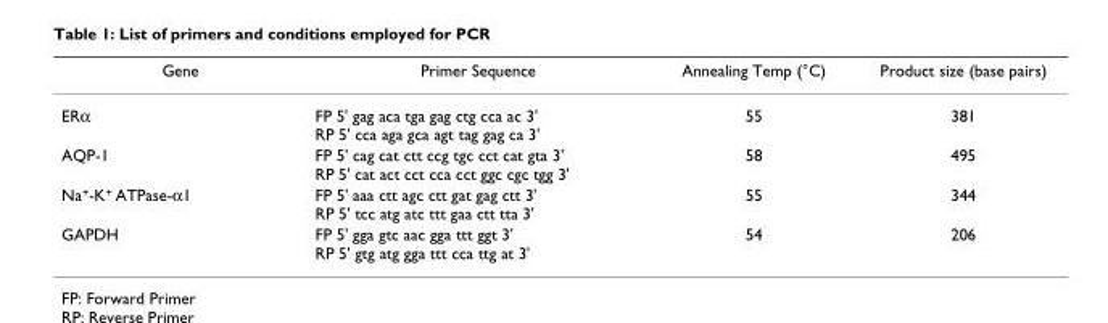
<table><thead><tr><td>Gene</td><td>Primer Sequence</td><td>Annealing Temp (°C)</td><td>Product size (base pairs)</td></tr></thead><tbody><tr><td>ERα</td><td>FP 5&#x27; gag aca tga gag ctg cca ac 3&#x27; RP 5&#x27; cca aga gca agt tag gag ca 3&#x27;</td><td>55</td><td>381</td></tr><tr><td>AQP-1</td><td>FP 5&#x27; cag cat ctt ccg tgc cct cat gta 3&#x27; RP 5&#x27; cat act cct cca cct ggc cgc tgg 3&#x27;</td><td>58</td><td>495</td></tr><tr><td>Na<sup>+</sup>-K<sup>+</sup> ATPase-α1</td><td>FP 5&#x27; aaa ctt agc ctt gat gag ctt 3&#x27; RP 5&#x27; tcc atg atc ttt gaa ctt tta 3&#x27;</td><td>55</td><td>344</td></tr><tr><td>GAPDH</td><td>FP 5&#x27; gga gtc aac gga ttt ggt 3&#x27; RP 5&#x27; gtg atg gga ttt cca ttg at 3&#x27;</td><td>54</td><td>206</td></tr></tbody></table>